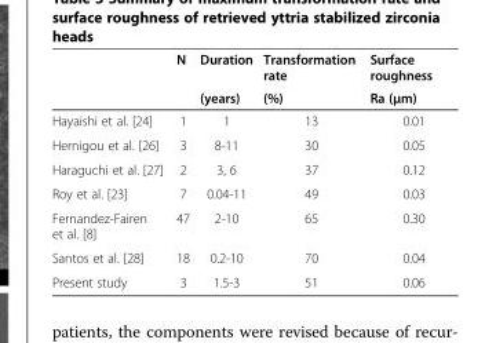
<table><thead><tr><td rowspan="2"></td><td rowspan="2">N</td><td rowspan="2">Duration (years)</td><td rowspan="2">Transformation rate (%)</td><td rowspan="2">Surface roughness Ra (μm)</td></tr><tr></tr></thead><tbody><tr><td>Hayaishi et al. [24]</td><td>1</td><td>1</td><td>13</td><td>0.01</td></tr><tr><td>Hernigou et al. [26]</td><td>3</td><td>8-11</td><td>30</td><td>0.05</td></tr><tr><td>Haraguchi et al. [27]</td><td>2</td><td>3, 6</td><td>37</td><td>0.12</td></tr><tr><td>Roy et al. [23]</td><td>7</td><td>0.04-11</td><td>49</td><td>0.03</td></tr><tr><td>Fernandez-Fairen et al. [8]</td><td>47</td><td>2-10</td><td>65</td><td>0.30</td></tr><tr><td>Santos et al. [28]</td><td>18</td><td>0.2-10</td><td>70</td><td>0.04</td></tr><tr><td>Present study</td><td>3</td><td>1.5-3</td><td>51</td><td>0.06</td></tr></tbody></table>